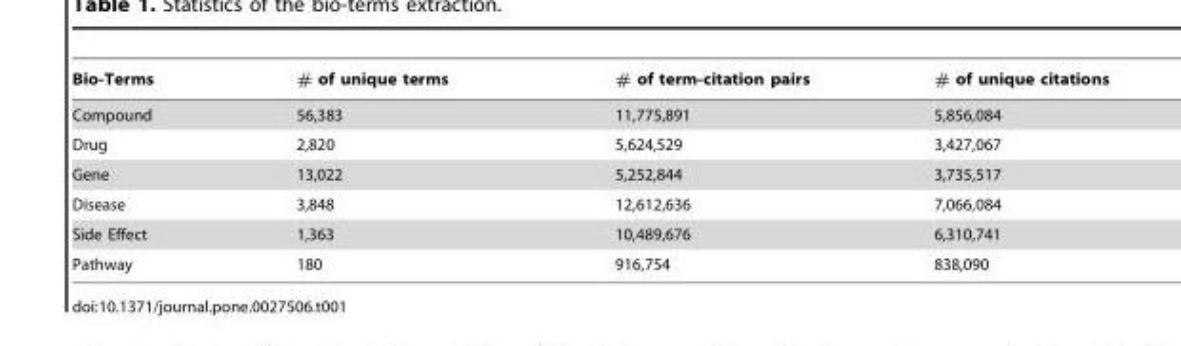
<table><thead><tr><td>Bio-Terms</td><td># of unique terms</td><td># of term-citation pairs</td><td># of unique citations</td></tr></thead><tbody><tr><td>Compound</td><td>56,383</td><td>11,775,891</td><td>5,856,084</td></tr><tr><td>Drug</td><td>2,820</td><td>5,624,529</td><td>3,427,067</td></tr><tr><td>Gene</td><td>13,022</td><td>5,252,844</td><td>3,735,517</td></tr><tr><td>Disease</td><td>3,848</td><td>12,612,636</td><td>7,066,084</td></tr><tr><td>Side Effect</td><td>1,363</td><td>10,489,676</td><td>6,310,741</td></tr><tr><td>Pathway</td><td>180</td><td>916,754</td><td>838,090</td></tr></tbody></table>